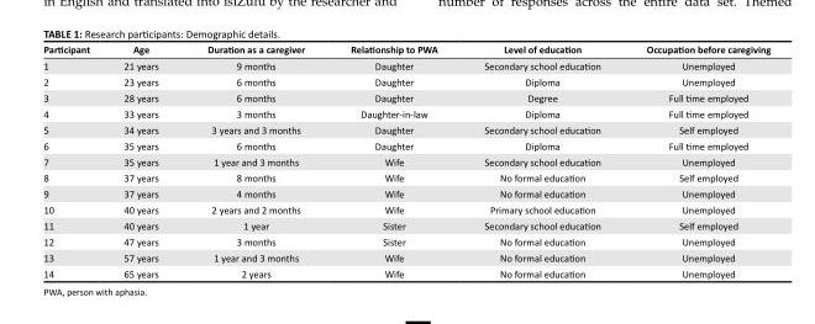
<table><thead><tr><td>Participant</td><td>Age</td><td>Duration as a caregiver</td><td>Relationship to PWA</td><td>Level of education</td><td>Occupation before caregiving</td></tr></thead><tbody><tr><td>1</td><td>21 years</td><td>9 months</td><td>Daughter</td><td>Secondary school education</td><td>Unemployed</td></tr><tr><td>2</td><td>23 years</td><td>6 months</td><td>Daughter</td><td>Diploma</td><td>Unemployed</td></tr><tr><td>3</td><td>28 years</td><td>6 months</td><td>Daughter</td><td>Degree</td><td>Full time employed</td></tr><tr><td>4</td><td>33 years</td><td>3 months</td><td>Daughter-in-law</td><td>Diploma</td><td>Full time employed</td></tr><tr><td>5</td><td>34 years</td><td>3 years and 3 months</td><td>Daughter</td><td>Secondary school education</td><td>Self employed</td></tr><tr><td>6</td><td>35 years</td><td>6 months</td><td>Daughter</td><td>Diploma</td><td>Full time employed</td></tr><tr><td>7</td><td>35 years</td><td>1 year and 3 months</td><td>Wife</td><td>Secondary school education</td><td>Unemployed</td></tr><tr><td>8</td><td>37 years</td><td>8 months</td><td>Wife</td><td>No formal education</td><td>Self employed</td></tr><tr><td>9</td><td>37 years</td><td>4 months</td><td>Wife</td><td>No formal education</td><td>Unemployed</td></tr><tr><td>10</td><td>40 years</td><td>2 years and 2 months</td><td>Wife</td><td>Primary school education</td><td>Unemployed</td></tr><tr><td>11</td><td>40 years</td><td>1 year</td><td>Sister</td><td>Secondary school education</td><td>Self employed</td></tr><tr><td>12</td><td>47 years</td><td>3 months</td><td>Sister</td><td>No formal education</td><td>Unemployed</td></tr><tr><td>13</td><td>57 years</td><td>1 year and 3 months</td><td>Wife</td><td>No formal education</td><td>Unemployed</td></tr><tr><td>14</td><td>65 years</td><td>2 years</td><td>Wife</td><td>No formal education</td><td>Unemployed</td></tr></tbody></table>